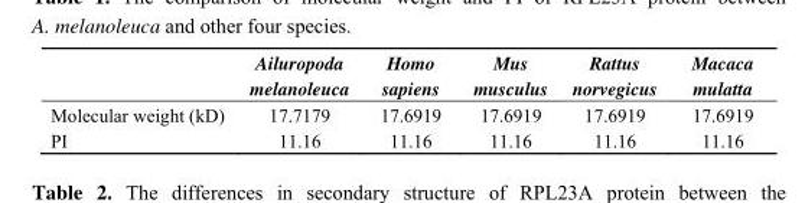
<table><thead><tr><td></td><td>Ailuropoda melanoleuca</td><td>Homo sapiens</td><td>Mus musculus</td><td>Rattus norvegicus</td><td>Macaca mulatta</td></tr></thead><tbody><tr><td>Molecular weight (kD)</td><td>17.7179</td><td>17.6919</td><td>17.6919</td><td>17.6919</td><td>17.6919</td></tr><tr><td>PI</td><td>11.16</td><td>11.16</td><td>11.16</td><td>11.16</td><td>11.16</td></tr></tbody></table>